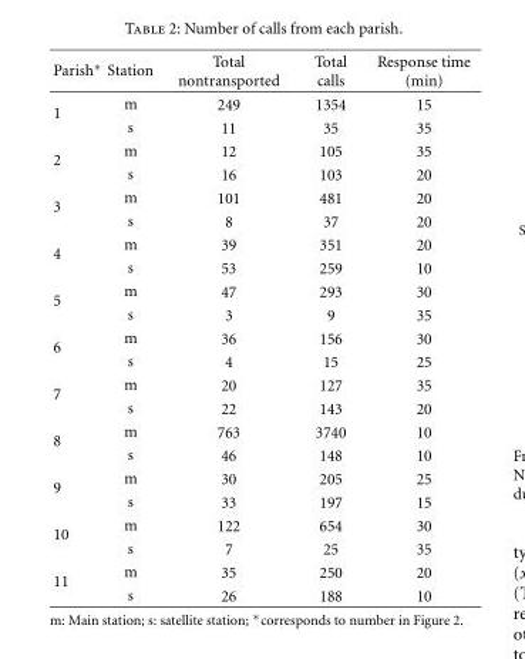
<table><thead><tr><td>Parish∗</td><td>Station</td><td>Total nontransported</td><td>Total calls</td><td>Response time (min)</td></tr></thead><tbody><tr><td rowspan="2">1</td><td>m</td><td>249</td><td>1354</td><td>15</td></tr><tr><td>s</td><td>11</td><td>35</td><td>35</td></tr><tr><td rowspan="2">2</td><td>m</td><td>12</td><td>105</td><td>35</td></tr><tr><td>s</td><td>16</td><td>103</td><td>20</td></tr><tr><td rowspan="2">3</td><td>m</td><td>101</td><td>481</td><td>20</td></tr><tr><td>s</td><td>8</td><td>37</td><td>20</td></tr><tr><td rowspan="2">4</td><td>m</td><td>39</td><td>351</td><td>20</td></tr><tr><td>s</td><td>53</td><td>259</td><td>10</td></tr><tr><td rowspan="2">5</td><td>m</td><td>47</td><td>293</td><td>30</td></tr><tr><td>s</td><td>3</td><td>9</td><td>35</td></tr><tr><td rowspan="2">6</td><td>m</td><td>36</td><td>156</td><td>30</td></tr><tr><td>s</td><td>4</td><td>15</td><td>25</td></tr><tr><td rowspan="2">7</td><td>m</td><td>20</td><td>127</td><td>35</td></tr><tr><td>s</td><td>22</td><td>143</td><td>20</td></tr><tr><td rowspan="2">8</td><td>m</td><td>763</td><td>3740</td><td>10</td></tr><tr><td>s</td><td>46</td><td>148</td><td>10</td></tr><tr><td rowspan="2">9</td><td>m</td><td>30</td><td>205</td><td>25</td></tr><tr><td>s</td><td>33</td><td>197</td><td>15</td></tr><tr><td rowspan="2">10</td><td>m</td><td>122</td><td>654</td><td>30</td></tr><tr><td>s</td><td>7</td><td>25</td><td>35</td></tr><tr><td rowspan="2">11</td><td>m</td><td>35</td><td>250</td><td>20</td></tr><tr><td>s</td><td>26</td><td>188</td><td>10</td></tr></tbody></table>